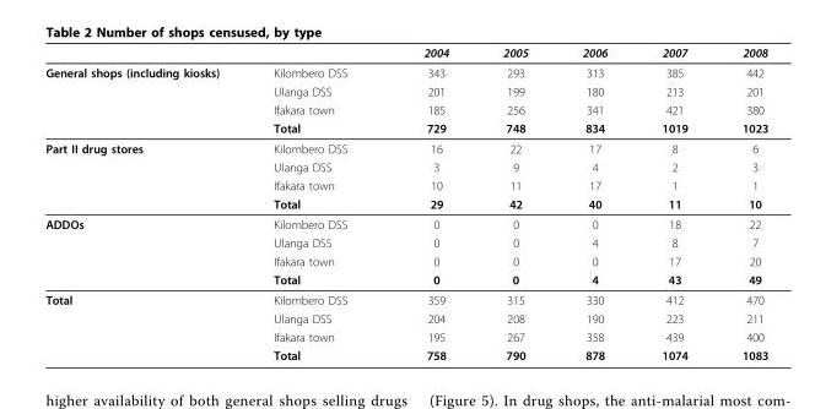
<table><thead><tr><td></td><td></td><td>2004</td><td>2005</td><td>2006</td><td>2007</td><td>2008</td></tr></thead><tbody><tr><td rowspan="4">General shops (including kiosks)</td><td>Kilombero DSS</td><td>343</td><td>293</td><td>313</td><td>385</td><td>442</td></tr><tr><td>Ulanga DSS</td><td>201</td><td>199</td><td>180</td><td>213</td><td>201</td></tr><tr><td>Ifakara town</td><td>185</td><td>256</td><td>341</td><td>421</td><td>380</td></tr><tr><td>Total</td><td>729</td><td>748</td><td>834</td><td>1019</td><td>1023</td></tr><tr><td rowspan="4">Part II drug stores</td><td>Kilombero DSS</td><td>16</td><td>22</td><td>17</td><td>8</td><td>6</td></tr><tr><td>Ulanga DSS</td><td>3</td><td>9</td><td>4</td><td>2</td><td>3</td></tr><tr><td>Ifakara town</td><td>10</td><td>11</td><td>17</td><td>1</td><td>1</td></tr><tr><td>Total</td><td>29</td><td>42</td><td>40</td><td>11</td><td>10</td></tr><tr><td rowspan="4">ADDOs</td><td>Kilombero DSS</td><td>0</td><td>0</td><td>0</td><td>18</td><td>22</td></tr><tr><td>Ulanga DSS</td><td>0</td><td>0</td><td>4</td><td>8</td><td>7</td></tr><tr><td>Ifakara town</td><td>0</td><td>0</td><td>0</td><td>17</td><td>20</td></tr><tr><td>Total</td><td>0</td><td>0</td><td>4</td><td>43</td><td>49</td></tr><tr><td rowspan="4">Total</td><td>Kilombero DSS</td><td>359</td><td>315</td><td>330</td><td>412</td><td>470</td></tr><tr><td>Ulanga DSS</td><td>204</td><td>208</td><td>190</td><td>223</td><td>211</td></tr><tr><td>Ifakara town</td><td>195</td><td>267</td><td>358</td><td>439</td><td>400</td></tr><tr><td>Total</td><td>758</td><td>790</td><td>878</td><td>1074</td><td>1083</td></tr></tbody></table>